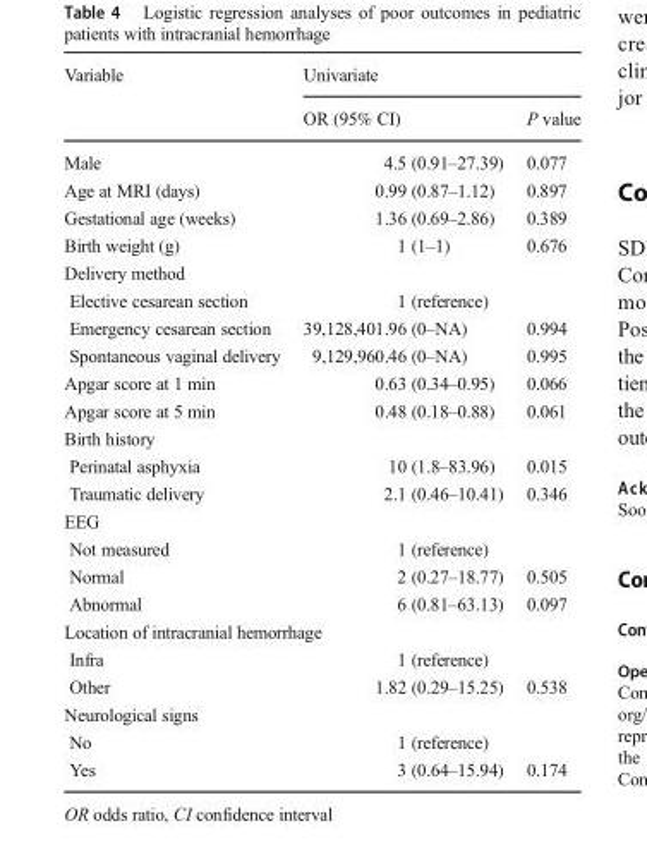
<table><thead><tr><td rowspan="2">Variable</td><td colspan="2">Univariate</td></tr><tr><td>OR (95% CI)</td><td>P value</td></tr></thead><tbody><tr><td>Male</td><td>4.5 (0.91–27.39)</td><td>0.077</td></tr><tr><td>Age at MRI (days)</td><td>0.99 (0.87–1.12)</td><td>0.897</td></tr><tr><td>Gestational age (weeks)</td><td>1.36 (0.69–2.86)</td><td>0.389</td></tr><tr><td>Birth weight (g)</td><td>1 (1–1)</td><td>0.676</td></tr><tr><td colspan="3">Delivery method</td></tr><tr><td>Elective cesarean section</td><td>1 (reference)</td><td></td></tr><tr><td>Emergency cesarean section</td><td>39,128,401.96 (0–NA)</td><td>0.994</td></tr><tr><td>Spontaneous vaginal delivery</td><td>9,129,960.46 (0–NA)</td><td>0.995</td></tr><tr><td>Apgar score at 1 min</td><td>0.63 (0.34–0.95)</td><td>0.066</td></tr><tr><td>Apgar score at 5 min</td><td>0.48 (0.18–0.88)</td><td>0.061</td></tr><tr><td colspan="3">Birth history</td></tr><tr><td>Perinatal asphyxia</td><td>10 (1.8–83.96)</td><td>0.015</td></tr><tr><td>Traumatic delivery</td><td>2.1 (0.46–10.41)</td><td>0.346</td></tr><tr><td colspan="3">EEG</td></tr><tr><td>Not measured</td><td>1 (reference)</td><td></td></tr><tr><td>Normal</td><td>2 (0.27–18.77)</td><td>0.505</td></tr><tr><td>Abnormal</td><td>6 (0.81–63.13)</td><td>0.097</td></tr><tr><td colspan="3">Location of intracranial hemorrhage</td></tr><tr><td>Infra</td><td>1 (reference)</td><td></td></tr><tr><td>Other</td><td>1.82 (0.29–15.25)</td><td>0.538</td></tr><tr><td colspan="3">Neurological signs</td></tr><tr><td>No</td><td>1 (reference)</td><td></td></tr><tr><td>Yes</td><td>3 (0.64–15.94)</td><td>0.174</td></tr></tbody></table>